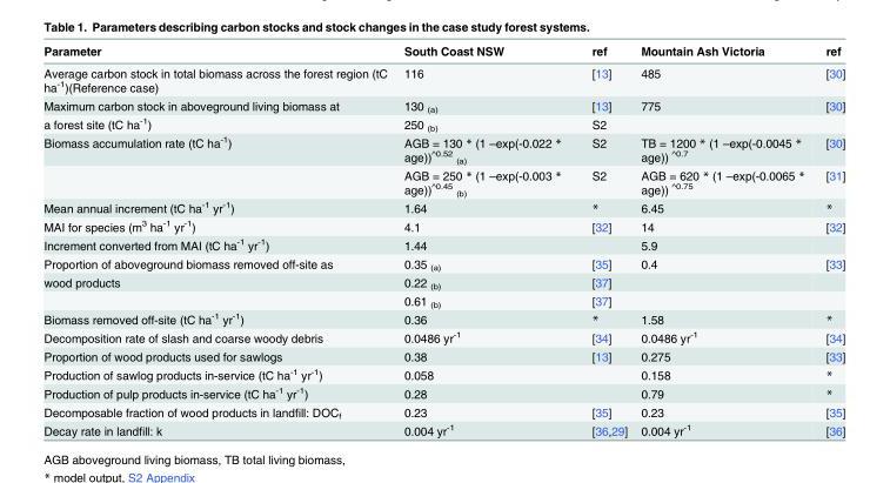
<table><thead><tr><td>Parameter</td><td>South Coast NSW</td><td>ref</td><td>Mountain Ash Victoria</td><td>ref</td></tr></thead><tbody><tr><td>Average carbon stock in total biomass across the forest region (tC ha<sup>-1</sup>)(Reference case)</td><td>116</td><td>[13]</td><td>485</td><td>[30]</td></tr><tr><td>Maximum carbon stock in aboveground living biomass at</td><td>130 <sub>(a)</sub></td><td>[13]</td><td>775</td><td>[30]</td></tr><tr><td>a forest site (tC ha<sup>-1</sup>)</td><td>250 <sub>(b)</sub></td><td>S2</td><td></td><td></td></tr><tr><td rowspan="2">Biomass accumulation rate (tC ha<sup>-1</sup>)</td><td>AGB = 130 * (1 –exp(-0.022 * age))^0.52 (a)</td><td>S2</td><td>TB = 1200 * (1 –exp(-0.0045 * age)) ^0.7</td><td>[30]</td></tr><tr><td>AGB = 250 * (1 –exp(-0.003 * age))^0.45 (b)</td><td>S2</td><td>AGB = 620 * (1 –exp(-0.0065 * age)) ^0.75</td><td>[31]</td></tr><tr><td>Mean annual increment (tC ha<sup>-1</sup> yr<sup>-1</sup>)</td><td>1.64</td><td>*</td><td>6.45</td><td>*</td></tr><tr><td>MAI for species (m<sup>3</sup> ha<sup>-1</sup> yr<sup>-1</sup>)</td><td>4.1</td><td>[32]</td><td>14</td><td>[32]</td></tr><tr><td>Increment converted from MAI (tC ha<sup>-1</sup> yr<sup>-1</sup>)</td><td>1.44</td><td></td><td>5.9</td><td></td></tr><tr><td>Proportion of aboveground biomass removed off-site as</td><td>0.35 <sub>(a)</sub></td><td>[35]</td><td>0.4</td><td>[33]</td></tr><tr><td rowspan="2">wood products</td><td>0.22 <sub>(b)</sub></td><td>[37]</td><td></td><td></td></tr><tr><td>0.61 <sub>(b)</sub></td><td>[37]</td><td></td><td></td></tr><tr><td>Biomass removed off-site (tC ha<sup>-1</sup> yr<sup>-1</sup>)</td><td>0.36</td><td>*</td><td>1.58</td><td>*</td></tr><tr><td>Decomposition rate of slash and coarse woody debris</td><td>0.0486 yr<sup>-1</sup></td><td>[34]</td><td>0.0486 yr<sup>-1</sup></td><td>[34]</td></tr><tr><td>Proportion of wood products used for sawlogs</td><td>0.38</td><td>[13]</td><td>0.275</td><td>[33]</td></tr><tr><td>Production of sawlog products in-service (tC ha<sup>-1</sup> yr<sup>-1</sup>)</td><td>0.058</td><td></td><td>0.158</td><td>*</td></tr><tr><td>Production of pulp products in-service (tC ha<sup>-1</sup> yr<sup>-1</sup>)</td><td>0.28</td><td></td><td>0.79</td><td>*</td></tr><tr><td>Decomposable fraction of wood products in landfill: DOC<sub>f</sub></td><td>0.23</td><td>[35]</td><td>0.23</td><td>[35]</td></tr><tr><td>Decay rate in landfill: k</td><td>0.004 yr<sup>-1</sup></td><td>[36,29]</td><td>0.004 yr<sup>-1</sup></td><td>[36]</td></tr></tbody></table>